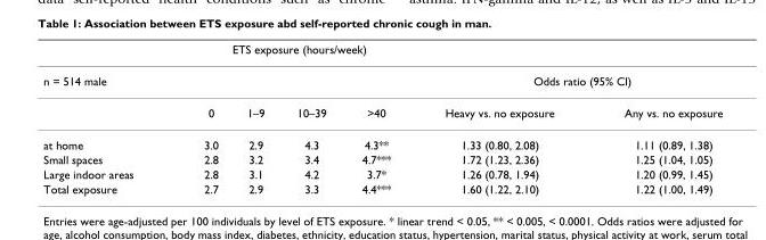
<table><thead><tr><td rowspan="2">n = 514 male</td><td colspan="4">ETS exposure (hours/week)</td><td></td><td></td></tr><tr><td></td><td></td><td></td><td></td><td colspan="2">Odds ratio (95% CI)</td></tr></thead><tbody><tr><td></td><td>0</td><td>1–9</td><td>10–39</td><td>&gt;40</td><td>Heavy vs. no exposure</td><td>Any vs. no exposure</td></tr><tr><td>at home</td><td>3.0</td><td>2.9</td><td>4.3</td><td>4.3**</td><td>1.33 (0.80, 2.08)</td><td>1.11 (0.89, 1.38)</td></tr><tr><td>Small spaces</td><td>2.8</td><td>3.2</td><td>3.4</td><td>4.7***</td><td>1.72 (1.23, 2.36)</td><td>1.25 (1.04, 1.05)</td></tr><tr><td>Large indoor areas</td><td>2.8</td><td>3.1</td><td>4.2</td><td>3.7*</td><td>1.26 (0.78, 1.94)</td><td>1.20 (0.99, 1.45)</td></tr><tr><td>Total exposure</td><td>2.7</td><td>2.9</td><td>3.3</td><td>4.4***</td><td>1.60 (1.22, 2.10)</td><td>1.22 (1.00, 1.49)</td></tr></tbody></table>